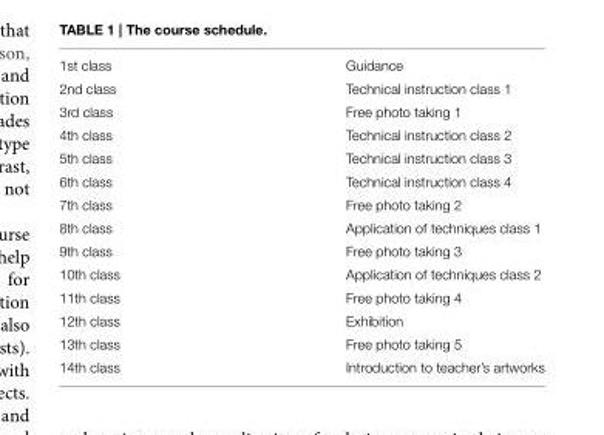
<table><tbody><tr><td>1st class</td><td>Guidance</td></tr><tr><td>2nd class</td><td>Technical instruction class 1</td></tr><tr><td>3rd class</td><td>Free photo taking 1</td></tr><tr><td>4th class</td><td>Technical instruction class 2</td></tr><tr><td>5th class</td><td>Technical instruction class 3</td></tr><tr><td>6th class</td><td>Technical instruction class 4</td></tr><tr><td>7th class</td><td>Free photo taking 2</td></tr><tr><td>8th class</td><td>Application of techniques class 1</td></tr><tr><td>9th class</td><td>Free photo taking 3</td></tr><tr><td>10th class</td><td>Application of techniques class 2</td></tr><tr><td>11th class</td><td>Free photo taking 4</td></tr><tr><td>12th class</td><td>Exhibition</td></tr><tr><td>13th class</td><td>Free photo taking 5</td></tr><tr><td>14th class</td><td>Introduction to teacher’s artworks</td></tr></tbody></table>